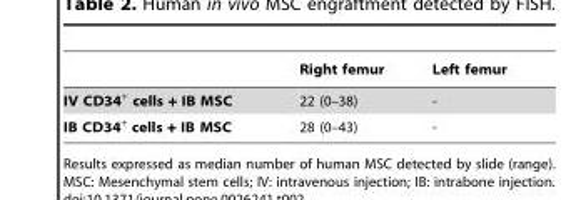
<table><thead><tr><td></td><td>Right femur</td><td>Left femur</td></tr></thead><tbody><tr><td>IV CD34<sup>+</sup> cells + IB MSC</td><td>22 (0–38)</td><td>-</td></tr><tr><td>IB CD34<sup>+</sup> cells + IB MSC</td><td>28 (0–43)</td><td>-</td></tr></tbody></table>